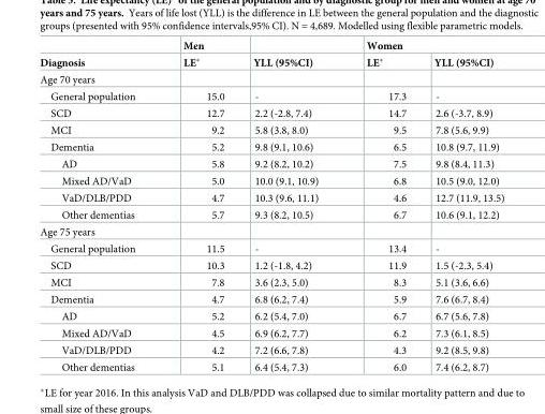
<table><thead><tr><td rowspan="2">Diagnosis</td><td rowspan="2">Men LE*</td><td rowspan="2">YLL (95%CI)</td><td colspan="2">Women</td></tr><tr><td>LE*</td><td>YLL (95%CI)</td></tr></thead><tbody><tr><td colspan="5">Age 70 years</td></tr><tr><td>General population</td><td>15.0</td><td>-</td><td>17.3</td><td>-</td></tr><tr><td>SCD</td><td>12.7</td><td>2.2 (-2.8, 7.4)</td><td>14.7</td><td>2.6 (-3.7, 8.9)</td></tr><tr><td>MCI</td><td>9.2</td><td>5.8 (3.8, 8.0)</td><td>9.5</td><td>7.8 (5.6, 9.9)</td></tr><tr><td>Dementia</td><td>5.2</td><td>9.8 (9.1, 10.6)</td><td>6.5</td><td>10.8 (9.7, 11.9)</td></tr><tr><td>AD</td><td>5.8</td><td>9.2 (8.2, 10.2)</td><td>7.5</td><td>9.8 (8.4, 11.3)</td></tr><tr><td>Mixed AD/VaD</td><td>5.0</td><td>10.0 (9.1, 10.9)</td><td>6.8</td><td>10.5 (9.0, 12.0)</td></tr><tr><td>VaD/DLB/PDD</td><td>4.7</td><td>10.3 (9.6, 11.1)</td><td>4.6</td><td>12.7 (11.9, 13.5)</td></tr><tr><td>Other dementias</td><td>5.7</td><td>9.3 (8.2, 10.5)</td><td>6.7</td><td>10.6 (9.1, 12.2)</td></tr><tr><td colspan="5">Age 75 years</td></tr><tr><td>General population</td><td>11.5</td><td>-</td><td>13.4</td><td>-</td></tr><tr><td>SCD</td><td>10.3</td><td>1.2 (-1.8, 4.2)</td><td>11.9</td><td>1.5 (-2.3, 5.4)</td></tr><tr><td>MCI</td><td>7.8</td><td>3.6 (2.3, 5.0)</td><td>8.3</td><td>5.1 (3.6, 6.6)</td></tr><tr><td>Dementia</td><td>4.7</td><td>6.8 (6.2, 7.4)</td><td>5.9</td><td>7.6 (6.7, 8.4)</td></tr><tr><td>AD</td><td>5.2</td><td>6.2 (5.4, 7.0)</td><td>6.7</td><td>6.7 (5.6, 7.8)</td></tr><tr><td>Mixed AD/VaD</td><td>4.5</td><td>6.9 (6.2, 7.7)</td><td>6.2</td><td>7.3 (6.1, 8.5)</td></tr><tr><td>VaD/DLB/PDD</td><td>4.2</td><td>7.2 (6.6, 7.8)</td><td>4.3</td><td>9.2 (8.5, 9.8)</td></tr><tr><td>Other dementias</td><td>5.1</td><td>6.4 (5.4, 7.3)</td><td>6.0</td><td>7.4 (6.2, 8.7)</td></tr></tbody></table>